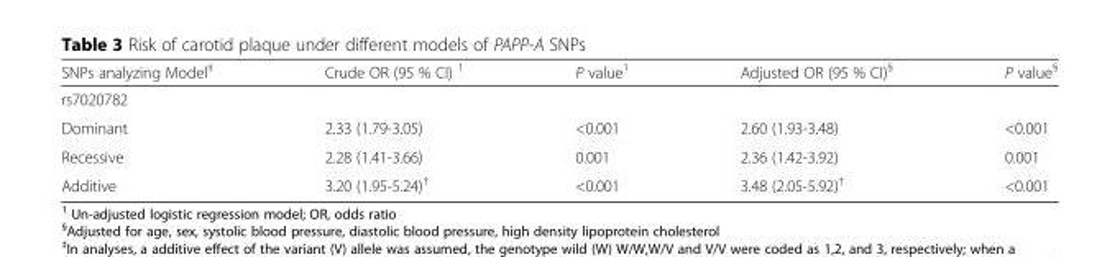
<table><thead><tr><td>SNPs analyzing Model<sup>‡</sup></td><td>Crude OR (95 % CI) <sup>1</sup></td><td>P value<sup>1</sup></td><td>Adjusted OR (95 % CI)<sup>§</sup></td><td>P value<sup>§</sup></td></tr></thead><tbody><tr><td colspan="5">rs7020782</td></tr><tr><td>Dominant</td><td>2.33 (1.79-3.05)</td><td>&lt;0.001</td><td>2.60 (1.93-3.48)</td><td>&lt;0.001</td></tr><tr><td>Recessive</td><td>2.28 (1.41-3.66)</td><td>0.001</td><td>2.36 (1.42-3.92)</td><td>0.001</td></tr><tr><td>Additive</td><td>3.20 (1.95-5.24)<sup>†</sup></td><td>&lt;0.001</td><td>3.48 (2.05-5.92)<sup>†</sup></td><td>&lt;0.001</td></tr></tbody></table>